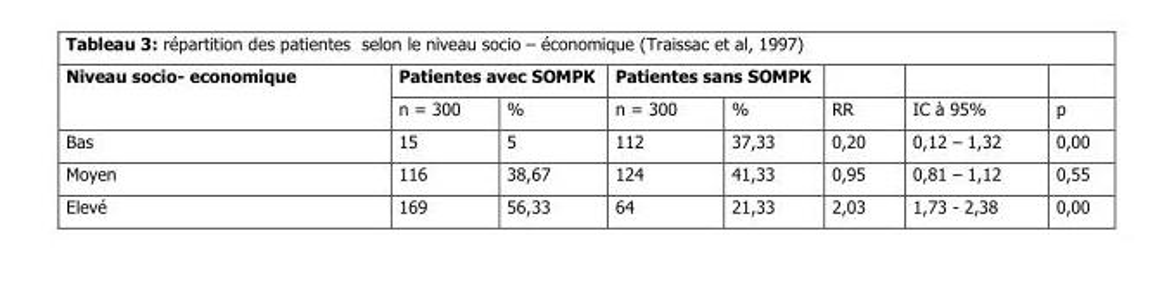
<table><thead><tr><td rowspan="2">Niveau socio- economique</td><td colspan="2">Patientes avec SOMPK</td><td colspan="2">Patientes sans SOMPK</td><td rowspan="2">RR</td><td rowspan="2">IC à 95%</td><td rowspan="2">p</td></tr><tr><td>n = 300</td><td>%</td><td>n = 300</td><td>%</td></tr></thead><tbody><tr><td>Bas</td><td>15</td><td>5</td><td>112</td><td>37,33</td><td>0,20</td><td>0,12 – 1,32</td><td>0,00</td></tr><tr><td>Moyen</td><td>116</td><td>38,67</td><td>124</td><td>41,33</td><td>0,95</td><td>0,81 – 1,12</td><td>0,55</td></tr><tr><td>Elevé</td><td>169</td><td>56,33</td><td>64</td><td>21,33</td><td>2,03</td><td>1,73 - 2,38</td><td>0,00</td></tr></tbody></table>